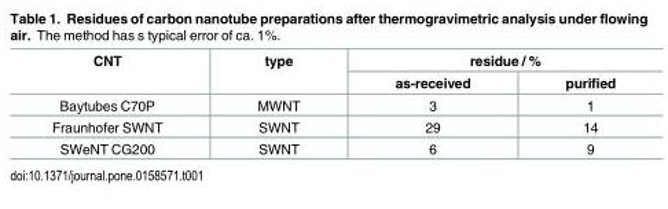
<table><thead><tr><td rowspan="2">CNT</td><td rowspan="2">type</td><td colspan="2">residue / %</td></tr><tr><td>as-received</td><td>purified</td></tr></thead><tbody><tr><td>Baytubes C70P</td><td>MWNT</td><td>3</td><td>1</td></tr><tr><td>Fraunhofer SWNT</td><td>SWNT</td><td>29</td><td>14</td></tr><tr><td>SWeNT CG200</td><td>SWNT</td><td>6</td><td>9</td></tr></tbody></table>